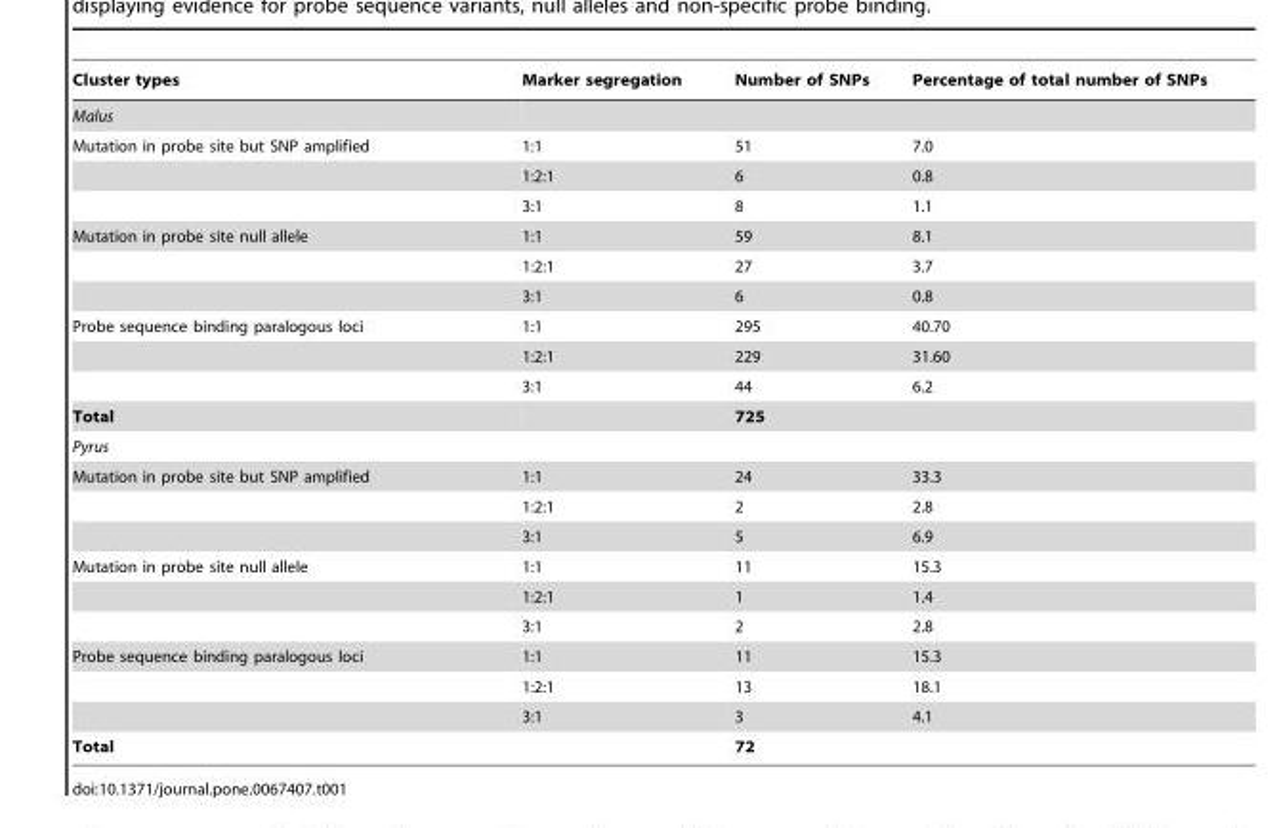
<table><thead><tr><td>Cluster types</td><td>Marker segregation</td><td>Number of SNPs</td><td>Percentage of total number of SNPs</td></tr></thead><tbody><tr><td colspan="4">Malus</td></tr><tr><td rowspan="3">Mutation in probe site but SNP amplified</td><td>1:1</td><td>51</td><td>7.0</td></tr><tr><td>1:2:1</td><td>6</td><td>0.8</td></tr><tr><td>3:1</td><td>8</td><td>1.1</td></tr><tr><td rowspan="3">Mutation in probe site null allele</td><td>1:1</td><td>59</td><td>8.1</td></tr><tr><td>1:2:1</td><td>27</td><td>3.7</td></tr><tr><td>3:1</td><td>6</td><td>0.8</td></tr><tr><td rowspan="3">Probe sequence binding paralogous loci</td><td>1:1</td><td>295</td><td>40.70</td></tr><tr><td>1:2:1</td><td>229</td><td>31.60</td></tr><tr><td>3:1</td><td>44</td><td>6.2</td></tr><tr><td>Total</td><td></td><td>725</td><td></td></tr><tr><td colspan="4">Pyrus</td></tr><tr><td rowspan="3">Mutation in probe site but SNP amplified</td><td>1:1</td><td>24</td><td>33.3</td></tr><tr><td>1:2:1</td><td>2</td><td>2.8</td></tr><tr><td>3:1</td><td>5</td><td>6.9</td></tr><tr><td rowspan="3">Mutation in probe site null allele</td><td>1:1</td><td>11</td><td>15.3</td></tr><tr><td>1:2:1</td><td>1</td><td>1.4</td></tr><tr><td>3:1</td><td>2</td><td>2.8</td></tr><tr><td rowspan="3">Probe sequence binding paralogous loci</td><td>1:1</td><td>11</td><td>15.3</td></tr><tr><td>1:2:1</td><td>13</td><td>18.1</td></tr><tr><td>3:1</td><td>3</td><td>4.1</td></tr><tr><td>Total</td><td></td><td>72</td><td></td></tr></tbody></table>